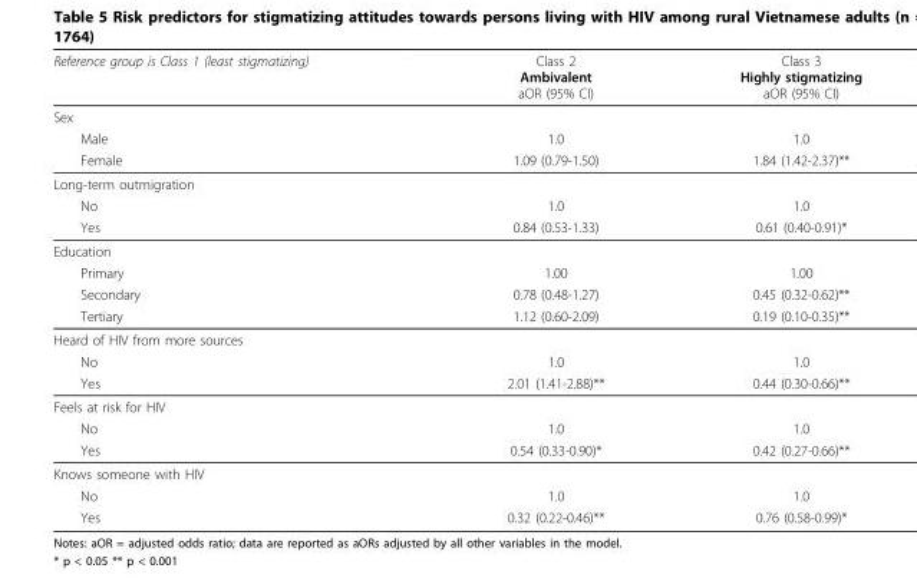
<table><thead><tr><td>Reference group is Class 1 (least stigmatizing)</td><td>Class 2 Ambivalent aOR (95% CI)</td><td>Class 3 Highly stigmatizing aOR (95% CI)</td></tr></thead><tbody><tr><td colspan="3">Sex</td></tr><tr><td>Male</td><td>1.0</td><td>1.0</td></tr><tr><td>Female</td><td>1.09 (0.79-1.50)</td><td>1.84 (1.42-2.37)**</td></tr><tr><td colspan="3">Long-term outmigration</td></tr><tr><td>No</td><td>1.0</td><td>1.0</td></tr><tr><td>Yes</td><td>0.84 (0.53-1.33)</td><td>0.61 (0.40-0.91)*</td></tr><tr><td colspan="3">Education</td></tr><tr><td>Primary</td><td>1.00</td><td>1.00</td></tr><tr><td>Secondary</td><td>0.78 (0.48-1.27)</td><td>0.45 (0.32-0.62)**</td></tr><tr><td>Tertiary</td><td>1.12 (0.60-2.09)</td><td>0.19 (0.10-0.35)**</td></tr><tr><td colspan="3">Heard of HIV from more sources</td></tr><tr><td>No</td><td>1.0</td><td>1.0</td></tr><tr><td>Yes</td><td>2.01 (1.41-2.88)**</td><td>0.44 (0.30-0.66)**</td></tr><tr><td colspan="3">Feels at risk for HIV</td></tr><tr><td>No</td><td>1.0</td><td>1.0</td></tr><tr><td>Yes</td><td>0.54 (0.33-0.90)*</td><td>0.42 (0.27-0.66)**</td></tr><tr><td colspan="3">Knows someone with HIV</td></tr><tr><td>No</td><td>1.0</td><td>1.0</td></tr><tr><td>Yes</td><td>0.32 (0.22-0.46)**</td><td>0.76 (0.58-0.99)*</td></tr></tbody></table>